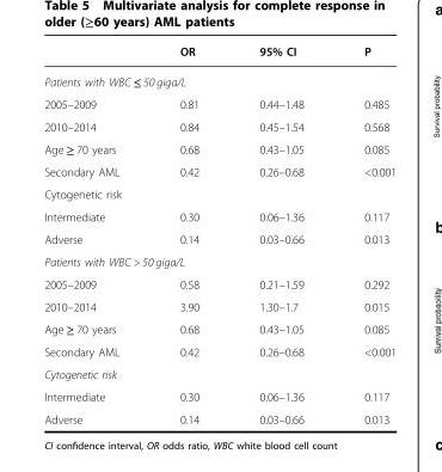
<table><thead><tr><td></td><td>OR</td><td>95% CI</td><td>P</td></tr></thead><tbody><tr><td colspan="4">Patients with WBC ≤ 50 giga/L</td></tr><tr><td>2005–2009</td><td>0.81</td><td>0.44–1.48</td><td>0.485</td></tr><tr><td>2010–2014</td><td>0.84</td><td>0.45–1.54</td><td>0.568</td></tr><tr><td>Age ≥ 70 years</td><td>0.68</td><td>0.43–1.05</td><td>0.085</td></tr><tr><td>Secondary AML</td><td>0.42</td><td>0.26–0.68</td><td>&lt;0.001</td></tr><tr><td colspan="4">Cytogenetic risk</td></tr><tr><td>Intermediate</td><td>0.30</td><td>0.06–1.36</td><td>0.117</td></tr><tr><td>Adverse</td><td>0.14</td><td>0.03–0.66</td><td>0.013</td></tr><tr><td colspan="4">Patients with WBC &gt; 50 giga/L</td></tr><tr><td>2005–2009</td><td>0.58</td><td>0.21–1.59</td><td>0.292</td></tr><tr><td>2010–2014</td><td>3.90</td><td>1.30–1.7</td><td>0.015</td></tr><tr><td>Age ≥ 70 years</td><td>0.68</td><td>0.43–1.05</td><td>0.085</td></tr><tr><td>Secondary AML</td><td>0.42</td><td>0.26–0.68</td><td>&lt;0.001</td></tr><tr><td colspan="4">Cytogenetic risk</td></tr><tr><td>Intermediate</td><td>0.30</td><td>0.06–1.36</td><td>0.117</td></tr><tr><td>Adverse</td><td>0.14</td><td>0.03–0.66</td><td>0.013</td></tr></tbody></table>